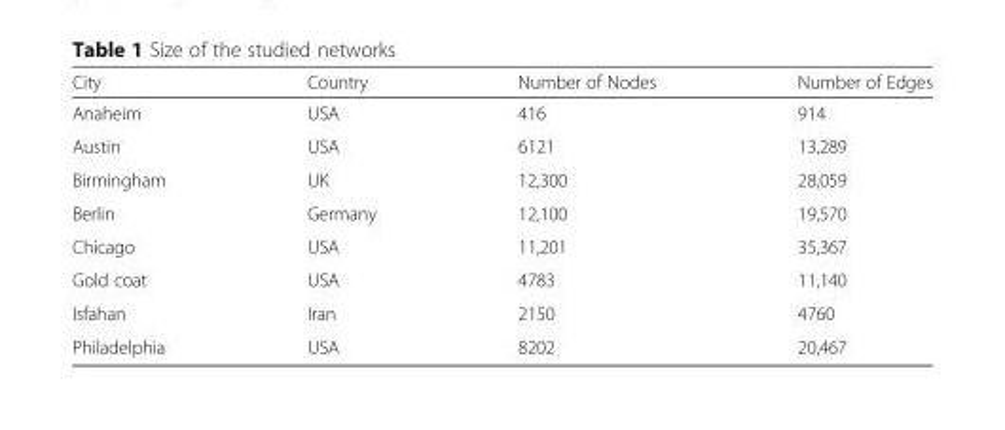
<table><thead><tr><td>City</td><td>Country</td><td>Number of Nodes</td><td>Number of Edges</td></tr></thead><tbody><tr><td>Anaheim</td><td>USA</td><td>416</td><td>914</td></tr><tr><td>Austin</td><td>USA</td><td>6121</td><td>13,289</td></tr><tr><td>Birmingham</td><td>UK</td><td>12,300</td><td>28,059</td></tr><tr><td>Berlin</td><td>Germany</td><td>12,100</td><td>19,570</td></tr><tr><td>Chicago</td><td>USA</td><td>11,201</td><td>35,367</td></tr><tr><td>Gold coat</td><td>USA</td><td>4783</td><td>11,140</td></tr><tr><td>Isfahan</td><td>Iran</td><td>2150</td><td>4760</td></tr><tr><td>Philadelphia</td><td>USA</td><td>8202</td><td>20,467</td></tr></tbody></table>